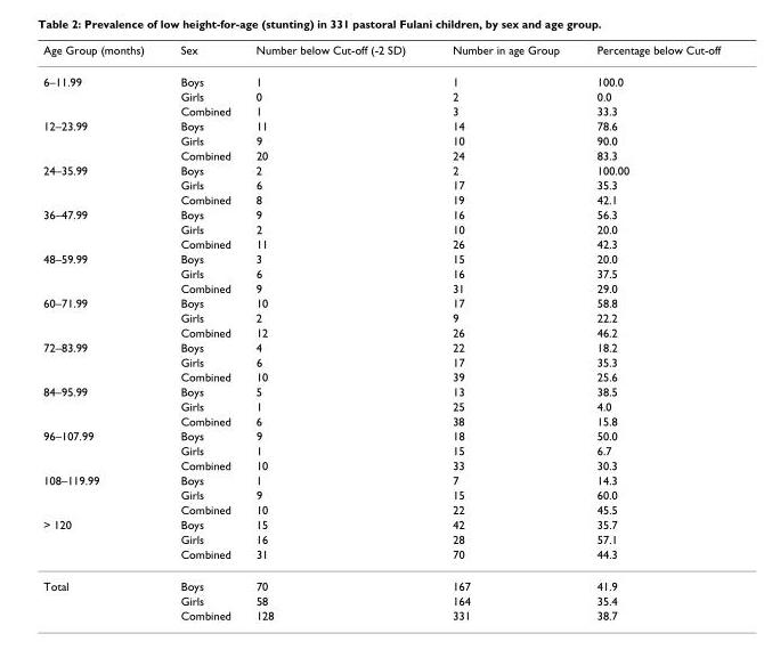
<table><thead><tr><td>Age Group (months)</td><td>Sex</td><td>Number below Cut-off (-2 SD)</td><td>Number in age Group</td><td>Percentage below Cut-off</td></tr></thead><tbody><tr><td rowspan="3">6–11.99</td><td>Boys</td><td>1</td><td>1</td><td>100.0</td></tr><tr><td>Girls</td><td>0</td><td>2</td><td>0.0</td></tr><tr><td>Combined</td><td>1</td><td>3</td><td>33.3</td></tr><tr><td rowspan="3">12–23.99</td><td>Boys</td><td>11</td><td>14</td><td>78.6</td></tr><tr><td>Girls</td><td>9</td><td>10</td><td>90.0</td></tr><tr><td>Combined</td><td>20</td><td>24</td><td>83.3</td></tr><tr><td rowspan="3">24–35.99</td><td>Boys</td><td>2</td><td>2</td><td>100.00</td></tr><tr><td>Girls</td><td>6</td><td>17</td><td>35.3</td></tr><tr><td>Combined</td><td>8</td><td>19</td><td>42.1</td></tr><tr><td rowspan="3">36–47.99</td><td>Boys</td><td>9</td><td>16</td><td>56.3</td></tr><tr><td>Girls</td><td>2</td><td>10</td><td>20.0</td></tr><tr><td>Combined</td><td>11</td><td>26</td><td>42.3</td></tr><tr><td rowspan="3">48–59.99</td><td>Boys</td><td>3</td><td>15</td><td>20.0</td></tr><tr><td>Girls</td><td>6</td><td>16</td><td>37.5</td></tr><tr><td>Combined</td><td>9</td><td>31</td><td>29.0</td></tr><tr><td rowspan="3">60–71.99</td><td>Boys</td><td>10</td><td>17</td><td>58.8</td></tr><tr><td>Girls</td><td>2</td><td>9</td><td>22.2</td></tr><tr><td>Combined</td><td>12</td><td>26</td><td>46.2</td></tr><tr><td rowspan="3">72–83.99</td><td>Boys</td><td>4</td><td>22</td><td>18.2</td></tr><tr><td>Girls</td><td>6</td><td>17</td><td>35.3</td></tr><tr><td>Combined</td><td>10</td><td>39</td><td>25.6</td></tr><tr><td rowspan="3">84–95.99</td><td>Boys</td><td>5</td><td>13</td><td>38.5</td></tr><tr><td>Girls</td><td>1</td><td>25</td><td>4.0</td></tr><tr><td>Combined</td><td>6</td><td>38</td><td>15.8</td></tr><tr><td rowspan="3">96–107.99</td><td>Boys</td><td>9</td><td>18</td><td>50.0</td></tr><tr><td>Girls</td><td>1</td><td>15</td><td>6.7</td></tr><tr><td>Combined</td><td>10</td><td>33</td><td>30.3</td></tr><tr><td rowspan="3">108–119.99</td><td>Boys</td><td>1</td><td>7</td><td>14.3</td></tr><tr><td>Girls</td><td>9</td><td>15</td><td>60.0</td></tr><tr><td>Combined</td><td>10</td><td>22</td><td>45.5</td></tr><tr><td rowspan="3">&gt; 120</td><td>Boys</td><td>15</td><td>42</td><td>35.7</td></tr><tr><td>Girls</td><td>16</td><td>28</td><td>57.1</td></tr><tr><td>Combined</td><td>31</td><td>70</td><td>44.3</td></tr><tr><td rowspan="3">Total</td><td>Boys</td><td>70</td><td>167</td><td>41.9</td></tr><tr><td>Girls</td><td>58</td><td>164</td><td>35.4</td></tr><tr><td>Combined</td><td>128</td><td>331</td><td>38.7</td></tr></tbody></table>